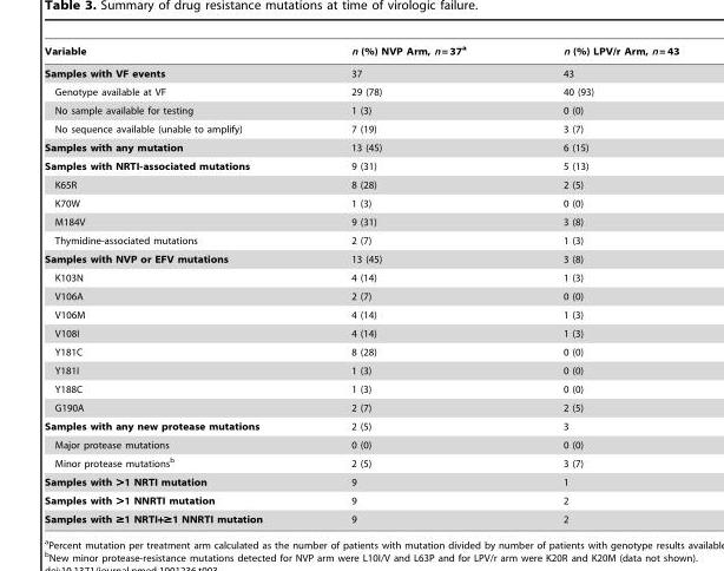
<table><thead><tr><td>Variable</td><td>n (%) NVP Arm, n = 37<sup>a</sup></td><td>n (%) LPV/r Arm, n = 43</td></tr></thead><tbody><tr><td>Samples with VF events</td><td>37</td><td>43</td></tr><tr><td>Genotype available at VF</td><td>29 (78)</td><td>40 (93)</td></tr><tr><td>No sample available for testing</td><td>1 (3)</td><td>0 (0)</td></tr><tr><td>No sequence available (unable to amplify)</td><td>7 (19)</td><td>3 (7)</td></tr><tr><td>Samples with any mutation</td><td>13 (45)</td><td>6 (15)</td></tr><tr><td>Samples with NRTI-associated mutations</td><td>9 (31)</td><td>5 (13)</td></tr><tr><td>K65R</td><td>8 (28)</td><td>2 (5)</td></tr><tr><td>K70W</td><td>1 (3)</td><td>0 (0)</td></tr><tr><td>M184V</td><td>9 (31)</td><td>3 (8)</td></tr><tr><td>Thymidine-associated mutations</td><td>2 (7)</td><td>1 (3)</td></tr><tr><td>Samples with NVP or EFV mutations</td><td>13 (45)</td><td>3 (8)</td></tr><tr><td>K103N</td><td>4 (14)</td><td>1 (3)</td></tr><tr><td>V106A</td><td>2 (7)</td><td>0 (0)</td></tr><tr><td>V106M</td><td>4 (14)</td><td>1 (3)</td></tr><tr><td>V108I</td><td>4 (14)</td><td>1 (3)</td></tr><tr><td>Y181C</td><td>8 (28)</td><td>0 (0)</td></tr><tr><td>Y181I</td><td>1 (3)</td><td>0 (0)</td></tr><tr><td>Y188C</td><td>1 (3)</td><td>0 (0)</td></tr><tr><td>G190A</td><td>2 (7)</td><td>2 (5)</td></tr><tr><td>Samples with any new protease mutations</td><td>2 (5)</td><td>3</td></tr><tr><td>Major protease mutations</td><td>0 (0)</td><td>0 (0)</td></tr><tr><td>Minor protease mutations<sup>b</sup></td><td>2 (5)</td><td>3 (7)</td></tr><tr><td>Samples with &gt;1 NRTI mutation</td><td>9</td><td>1</td></tr><tr><td>Samples with &gt;1 NNRTI mutation</td><td>9</td><td>2</td></tr><tr><td>Samples with ≥1 NRTI+≥1 NNRTI mutation</td><td>9</td><td>2</td></tr></tbody></table>